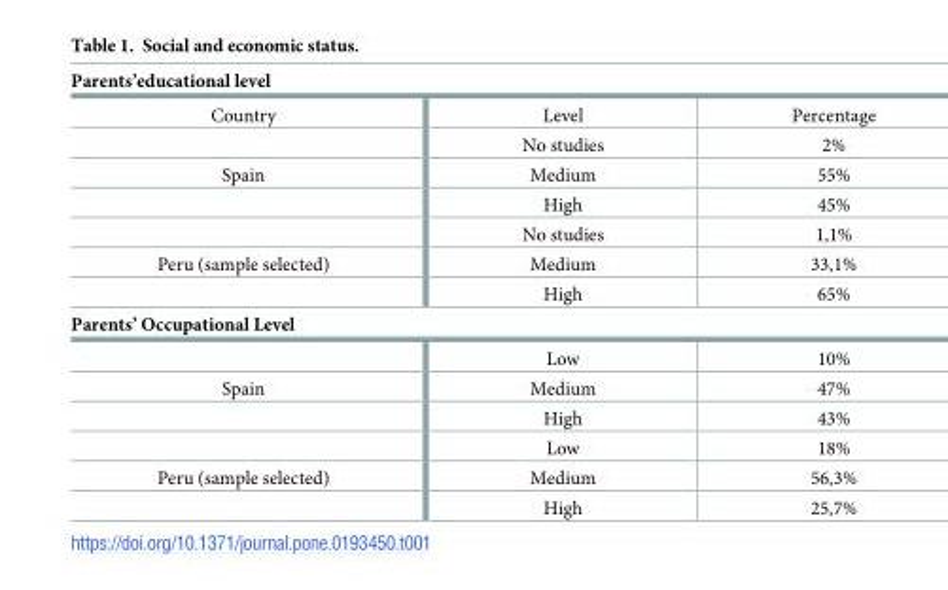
<table><tbody><tr><td colspan="3">Parents’educational level</td></tr><tr><td rowspan="2">Country</td><td>Level</td><td>Percentage</td></tr><tr><td>No studies</td><td>2%</td></tr><tr><td rowspan="3">Spain</td><td>Medium</td><td>55%</td></tr><tr><td>High</td><td>45%</td></tr><tr><td>No studies</td><td>1,1%</td></tr><tr><td rowspan="2">Peru (sample selected)</td><td>Medium</td><td>33,1%</td></tr><tr><td>High</td><td>65%</td></tr><tr><td colspan="3">Parents’ Occupational Level</td></tr><tr><td></td><td>Low</td><td>10%</td></tr><tr><td rowspan="3">Spain</td><td>Medium</td><td>47%</td></tr><tr><td>High</td><td>43%</td></tr><tr><td>Low</td><td>18%</td></tr><tr><td rowspan="2">Peru (sample selected)</td><td>Medium</td><td>56,3%</td></tr><tr><td>High</td><td>25,7%</td></tr></tbody></table>